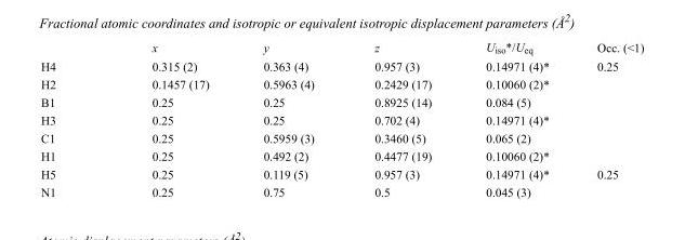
<table><thead><tr><td></td><td>x</td><td>y</td><td>z</td><td>U<sub>iso</sub>*/U<sub>eq</sub></td><td>Occ. (&lt;1)</td></tr></thead><tbody><tr><td>H4</td><td>0.315 (2)</td><td>0.363 (4)</td><td>0.957 (3)</td><td>0.14971 (4)*</td><td>0.25</td></tr><tr><td>H2</td><td>0.1457 (17)</td><td>0.5963 (4)</td><td>0.2429 (17)</td><td>0.10060 (2)*</td><td></td></tr><tr><td>B1</td><td>0.25</td><td>0.25</td><td>0.8925 (14)</td><td>0.084 (5)</td><td></td></tr><tr><td>H3</td><td>0.25</td><td>0.25</td><td>0.702 (4)</td><td>0.14971 (4)*</td><td></td></tr><tr><td>C1</td><td>0.25</td><td>0.5959 (3)</td><td>0.3460 (5)</td><td>0.065 (2)</td><td></td></tr><tr><td>H1</td><td>0.25</td><td>0.492 (2)</td><td>0.4477 (19)</td><td>0.10060 (2)*</td><td></td></tr><tr><td>H5</td><td>0.25</td><td>0.119 (5)</td><td>0.957 (3)</td><td>0.14971 (4)*</td><td>0.25</td></tr><tr><td>N1</td><td>0.25</td><td>0.75</td><td>0.5</td><td>0.045 (3)</td><td></td></tr></tbody></table>